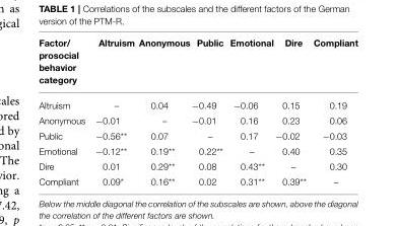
<table><thead><tr><td>Factor/ prosocial behavior category</td><td>Altruism</td><td>Anonymous</td><td>Public</td><td>Emotional</td><td>Dire</td><td>Compliant</td></tr></thead><tbody><tr><td>Altruism</td><td>–</td><td>0.04</td><td>−0.49</td><td>−0.06</td><td>0.15</td><td>0.19</td></tr><tr><td>Anonymous</td><td>−0.01</td><td>–</td><td>−0.01</td><td>0.16</td><td>0.23</td><td>0.06</td></tr><tr><td>Public</td><td>−0.56**</td><td>0.07</td><td>–</td><td>0.17</td><td>−0.02</td><td>−0.03</td></tr><tr><td>Emotional</td><td>−0.12**</td><td>0.19**</td><td>0.22**</td><td>–</td><td>0.40</td><td>0.35</td></tr><tr><td>Dire</td><td>0.01</td><td>0.29**</td><td>0.08</td><td>0.43**</td><td>–</td><td>0.30</td></tr><tr><td>Compliant</td><td>0.09*</td><td>0.16**</td><td>0.02</td><td>0.31**</td><td>0.39**</td><td>–</td></tr></tbody></table>